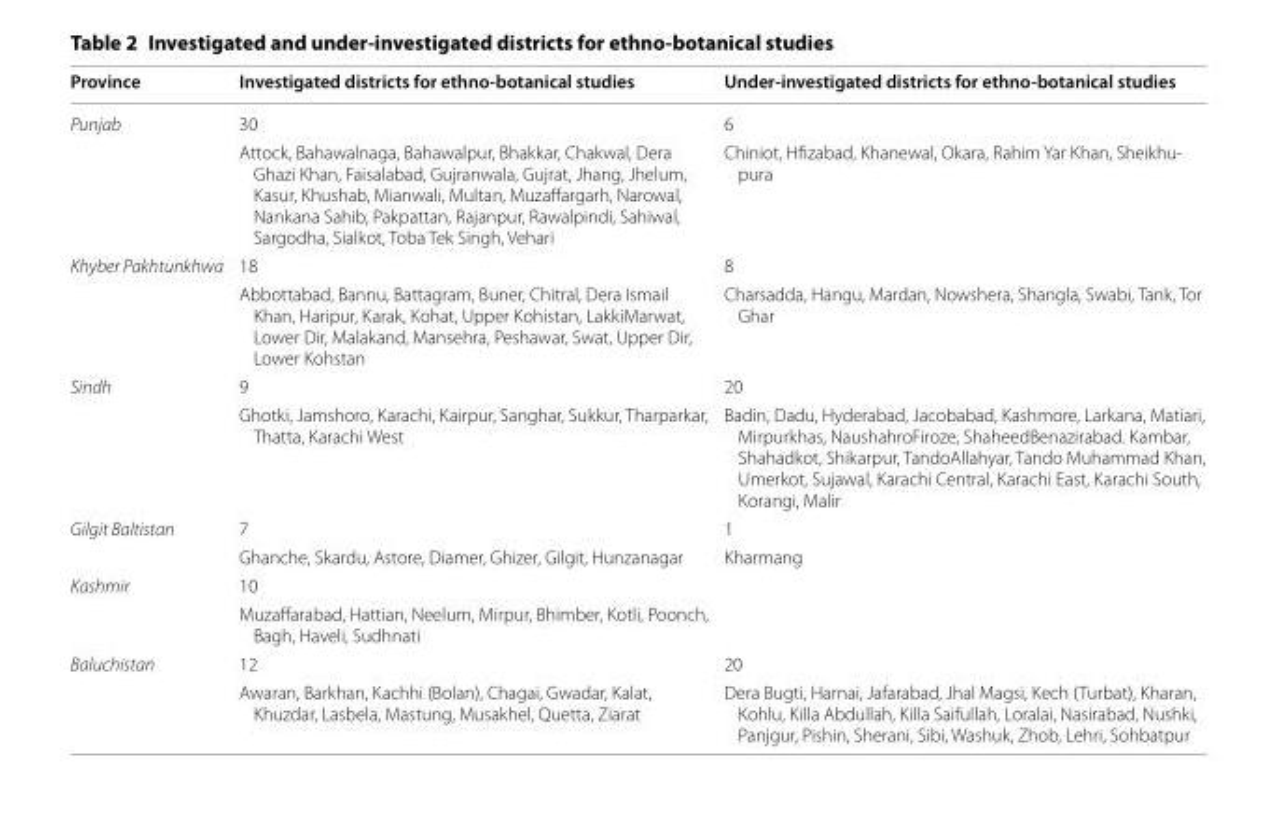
<table><thead><tr><td>Province</td><td>Investigated districts for ethno-botanical studies</td><td>Under-investigated districts for ethno-botanical studies</td></tr></thead><tbody><tr><td rowspan="2">Punjab</td><td>30</td><td>6</td></tr><tr><td>Attock, Bahawalnaga, Bahawalpur, Bhakkar, Chakwal, Dera Ghazi Khan, Faisalabad, Gujranwala, Gujrat, Jhang, Jhelum, Kasur, Khushab, Mianwali, Multan, Muzaffargarh, Narowal, Nankana Sahib, Pakpattan, Rajanpur, Rawalpindi, Sahiwal, Sargodha, Sialkot, Toba Tek Singh, Vehari</td><td>Chiniot, Hfizabad, Khanewal, Okara, Rahim Yar Khan, Sheikhu- pura</td></tr><tr><td rowspan="2">Khyber Pakhtunkhwa</td><td>18</td><td>8</td></tr><tr><td>Abbottabad, Bannu, Battagram, Buner, Chitral, Dera Ismail Khan, Haripur, Karak, Kohat, Upper Kohistan, LakkiMarwat, Lower Dir, Malakand, Mansehra, Peshawar, Swat, Upper Dir, Lower Kohstan</td><td>Charsadda, Hangu, Mardan, Nowshera, Shangla, Swabi, Tank, Tor Ghar</td></tr><tr><td rowspan="2">Sindh</td><td>9</td><td>20</td></tr><tr><td>Ghotki, Jamshoro, Karachi, Kairpur, Sanghar, Sukkur, Tharparkar, Thatta, Karachi West</td><td>Badin, Dadu, Hyderabad, Jacobabad, Kashmore, Larkana, Matiari, Mirpurkhas, NaushahroFiroze, ShaheedBenazirabad. Kambar, Shahadkot, Shikarpur, TandoAllahyar, Tando Muhammad Khan, Umerkot, Sujawal, Karachi Central, Karachi East, Karachi South, Korangi, Malir</td></tr><tr><td rowspan="2">Gilgit Baltistan</td><td>7</td><td>1</td></tr><tr><td>Ghanche, Skardu, Astore, Diamer, Ghizer, Gilgit, Hunzanagar</td><td>Kharmang</td></tr><tr><td rowspan="2">Kashmir</td><td>10</td><td rowspan="2"></td></tr><tr><td>Muzaffarabad, Hattian, Neelum, Mirpur, Bhimber, Kotli, Poonch, Bagh, Haveli, Sudhnati</td></tr><tr><td rowspan="2">Baluchistan</td><td>12</td><td>20</td></tr><tr><td>Awaran, Barkhan, Kachhi (Bolan), Chagai, Gwadar, Kalat, Khuzdar, Lasbela, Mastung, Musakhel, Quetta, Ziarat</td><td>Dera Bugti, Harnai, Jafarabad, Jhal Magsi, Kech (Turbat), Kharan, Kohlu, Killa Abdullah, Killa Saifullah, Loralai, Nasirabad, Nushki, Panjgur, Pishin, Sherani, Sibi, Washuk, Zhob, Lehri, Sohbatpur</td></tr></tbody></table>